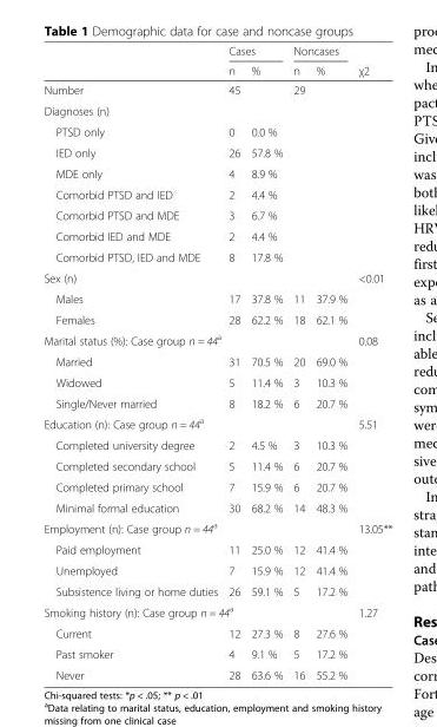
<table><thead><tr><td rowspan="2"></td><td colspan="2">Cases</td><td colspan="2">Noncases</td><td rowspan="2">χ2</td></tr><tr><td>n</td><td>%</td><td>n</td><td>%</td></tr></thead><tbody><tr><td>Number</td><td>45</td><td></td><td>29</td><td></td><td></td></tr><tr><td colspan="6">Diagnoses (n)</td></tr><tr><td>PTSD only</td><td>0</td><td>0.0 %</td><td></td><td></td><td></td></tr><tr><td>IED only</td><td>26</td><td>57.8 %</td><td></td><td></td><td></td></tr><tr><td>MDE only</td><td>4</td><td>8.9 %</td><td></td><td></td><td></td></tr><tr><td>Comorbid PTSD and IED</td><td>2</td><td>4.4 %</td><td></td><td></td><td></td></tr><tr><td>Comorbid PTSD and MDE</td><td>3</td><td>6.7 %</td><td></td><td></td><td></td></tr><tr><td>Comorbid IED and MDE</td><td>2</td><td>4.4 %</td><td></td><td></td><td></td></tr><tr><td>Comorbid PTSD, IED and MDE</td><td>8</td><td>17.8 %</td><td></td><td></td><td></td></tr><tr><td>Sex (n)</td><td></td><td></td><td></td><td></td><td>&lt;0.01</td></tr><tr><td>Males</td><td>17</td><td>37.8 %</td><td>11</td><td>37.9 %</td><td></td></tr><tr><td>Females</td><td>28</td><td>62.2 %</td><td>18</td><td>62.1 %</td><td></td></tr><tr><td colspan="2">Marital status (%): Case group n = 44<sup>a</sup></td><td></td><td></td><td></td><td>0.08</td></tr><tr><td>Married</td><td>31</td><td>70.5 %</td><td>20</td><td>69.0 %</td><td></td></tr><tr><td>Widowed</td><td>5</td><td>11.4 %</td><td>3</td><td>10.3 %</td><td></td></tr><tr><td>Single/Never married</td><td>8</td><td>18.2 %</td><td>6</td><td>20.7 %</td><td></td></tr><tr><td>Education (n): Case group n = 44<sup>a</sup></td><td></td><td></td><td></td><td></td><td>5.51</td></tr><tr><td>Completed university degree</td><td>2</td><td>4.5 %</td><td>3</td><td>10.3 %</td><td></td></tr><tr><td>Completed secondary school</td><td>5</td><td>11.4 %</td><td>6</td><td>20.7 %</td><td></td></tr><tr><td>Completed primary school</td><td>7</td><td>15.9 %</td><td>6</td><td>20.7 %</td><td></td></tr><tr><td>Minimal formal education</td><td>30</td><td>68.2 %</td><td>14</td><td>48.3 %</td><td></td></tr><tr><td colspan="2">Employment (n): Case group n = 44<sup>a</sup></td><td></td><td></td><td></td><td>13.05**</td></tr><tr><td>Paid employment</td><td>11</td><td>25.0 %</td><td>12</td><td>41.4 %</td><td></td></tr><tr><td>Unemployed</td><td>7</td><td>15.9 %</td><td>12</td><td>41.4 %</td><td></td></tr><tr><td>Subsistence living or home duties</td><td>26</td><td>59.1 %</td><td>5</td><td>17.2 %</td><td></td></tr><tr><td colspan="2">Smoking history (n): Case group n = 44<sup>a</sup></td><td></td><td></td><td></td><td>1.27</td></tr><tr><td>Current</td><td>12</td><td>27.3 %</td><td>8</td><td>27.6 %</td><td></td></tr><tr><td>Past smoker</td><td>4</td><td>9.1 %</td><td>5</td><td>17.2 %</td><td></td></tr><tr><td>Never</td><td>28</td><td>63.6 %</td><td>16</td><td>55.2 %</td><td></td></tr></tbody></table>